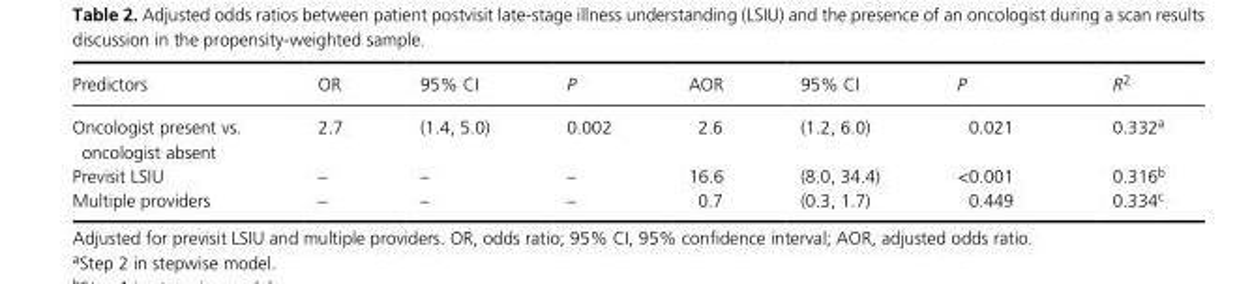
<table><thead><tr><td>Predictors</td><td>OR</td><td>95% CI</td><td>P</td><td>AOR</td><td>95% CI</td><td>P</td><td>R<sup>2</sup></td></tr></thead><tbody><tr><td>Oncologist present vs. oncologist absent</td><td>2.7</td><td>(1.4, 5.0)</td><td>0.002</td><td>2.6</td><td>(1.2, 6.0)</td><td>0.021</td><td>0.332<sup>a</sup></td></tr><tr><td>Previsit LSIU</td><td>–</td><td>–</td><td>–</td><td>16.6</td><td>(8.0, 34.4)</td><td>&lt;0.001</td><td>0.316<sup>b</sup></td></tr><tr><td>Multiple providers</td><td>–</td><td>–</td><td>–</td><td>0.7</td><td>(0.3, 1.7)</td><td>0.449</td><td>0.334<sup>c</sup></td></tr></tbody></table>